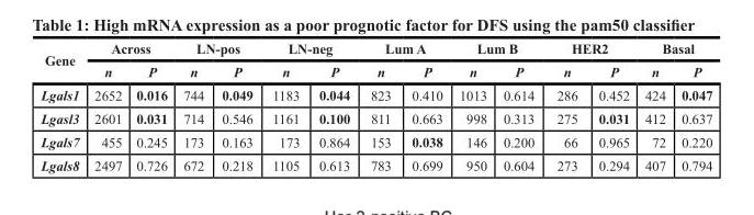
<table><thead><tr><td rowspan="2">Gene</td><td colspan="2">Across</td><td colspan="2">LN-pos</td><td colspan="2">LN-neg</td><td colspan="2">Lum A</td><td colspan="2">Lum B</td><td colspan="2">HER2</td><td colspan="2">Basal</td></tr><tr><td>n</td><td>P</td><td>n</td><td>P</td><td>n</td><td>P</td><td>n</td><td>P</td><td>n</td><td>P</td><td>n</td><td>P</td><td>n</td><td>P</td></tr></thead><tbody><tr><td>Lgals1</td><td>2652</td><td>0.016</td><td>744</td><td>0.049</td><td>1183</td><td>0.044</td><td>823</td><td>0.410</td><td>1013</td><td>0.614</td><td>286</td><td>0.452</td><td>424</td><td>0.047</td></tr><tr><td>Lgasl3</td><td>2601</td><td>0.031</td><td>714</td><td>0.546</td><td>1161</td><td>0.100</td><td>811</td><td>0.663</td><td>998</td><td>0.313</td><td>275</td><td>0.031</td><td>412</td><td>0.637</td></tr><tr><td>Lgals7</td><td>455</td><td>0.245</td><td>173</td><td>0.163</td><td>173</td><td>0.864</td><td>153</td><td>0.038</td><td>146</td><td>0.200</td><td>66</td><td>0.965</td><td>72</td><td>0.220</td></tr><tr><td>Lgals8</td><td>2497</td><td>0.726</td><td>672</td><td>0.218</td><td>1105</td><td>0.613</td><td>783</td><td>0.699</td><td>950</td><td>0.604</td><td>273</td><td>0.294</td><td>407</td><td>0.794</td></tr></tbody></table>